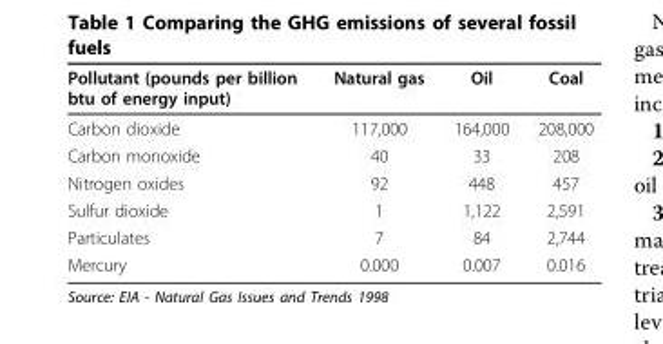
<table><thead><tr><td>Pollutant (pounds per billion btu of energy input)</td><td>Natural gas</td><td>Oil</td><td>Coal</td></tr></thead><tbody><tr><td>Carbon dioxide</td><td>117,000</td><td>164,000</td><td>208,000</td></tr><tr><td>Carbon monoxide</td><td>40</td><td>33</td><td>208</td></tr><tr><td>Nitrogen oxides</td><td>92</td><td>448</td><td>457</td></tr><tr><td>Sulfur dioxide</td><td>1</td><td>1,122</td><td>2,591</td></tr><tr><td>Particulates</td><td>7</td><td>84</td><td>2,744</td></tr><tr><td>Mercury</td><td>0.000</td><td>0.007</td><td>0.016</td></tr></tbody></table>